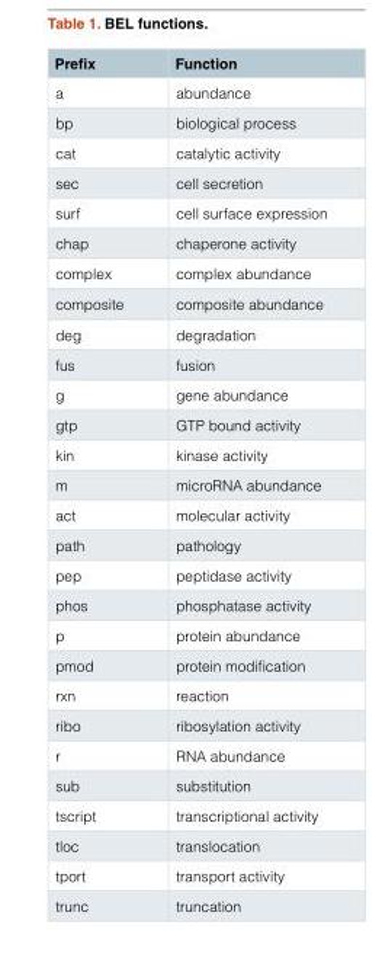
<table><thead><tr><td>Prefix</td><td>Function</td></tr></thead><tbody><tr><td>a</td><td>abundance</td></tr><tr><td>bp</td><td>biological process</td></tr><tr><td>cat</td><td>catalytic activity</td></tr><tr><td>sec</td><td>cell secretion</td></tr><tr><td>surf</td><td>cell surface expression</td></tr><tr><td>chap</td><td>chaperone activity</td></tr><tr><td>complex</td><td>complex abundance</td></tr><tr><td>composite</td><td>composite abundance</td></tr><tr><td>deg</td><td>degradation</td></tr><tr><td>fus</td><td>fusion</td></tr><tr><td>g</td><td>gene abundance</td></tr><tr><td>gtp</td><td>GTP bound activity</td></tr><tr><td>kin</td><td>kinase activity</td></tr><tr><td>m</td><td>microRNA abundance</td></tr><tr><td>act</td><td>molecular activity</td></tr><tr><td>path</td><td>pathology</td></tr><tr><td>pep</td><td>peptidase activity</td></tr><tr><td>phos</td><td>phosphatase activity</td></tr><tr><td>p</td><td>protein abundance</td></tr><tr><td>pmod</td><td>protein modification</td></tr><tr><td>rxn</td><td>reaction</td></tr><tr><td>ribo</td><td>ribosylation activity</td></tr><tr><td>r</td><td>RNA abundance</td></tr><tr><td>sub</td><td>substitution</td></tr><tr><td>tscript</td><td>transcriptional activity</td></tr><tr><td>tloc</td><td>translocation</td></tr><tr><td>tport</td><td>transport activity</td></tr><tr><td>trunc</td><td>truncation</td></tr></tbody></table>